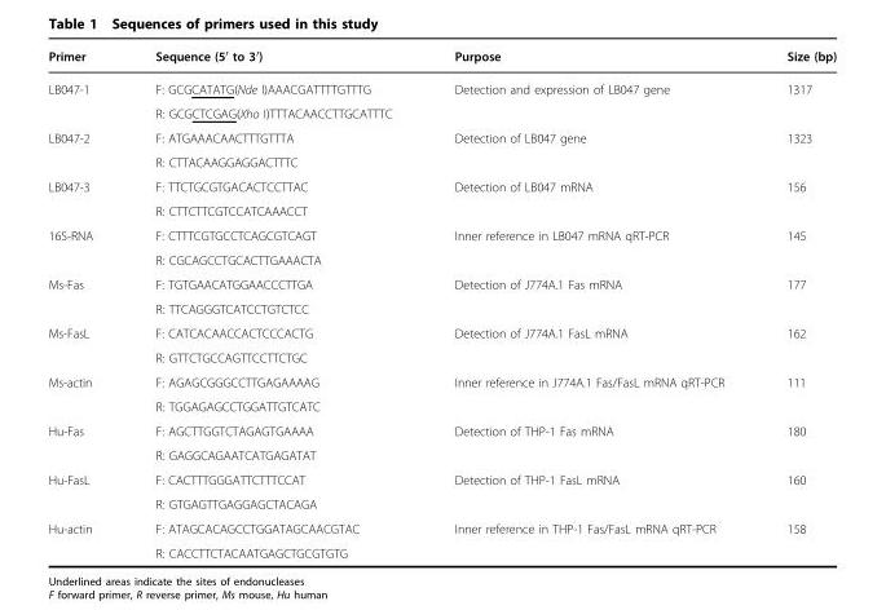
<table><thead><tr><td>Primer</td><td>Sequence (5′ to 3′)</td><td>Purpose</td><td>Size (bp)</td></tr></thead><tbody><tr><td rowspan="2">LB047-1</td><td>F: GCGCATATG(Nde I)AAACGATTTTGTTTG</td><td>Detection and expression of LB047 gene</td><td>1317</td></tr><tr><td>R: GCGCTCGAG(Xho I)TTTACAACCTTGCATTTC</td><td></td><td></td></tr><tr><td rowspan="2">LB047-2</td><td>F: ATGAAACAACTTTGTTTA</td><td>Detection of LB047 gene</td><td>1323</td></tr><tr><td>R: CTTACAAGGAGGACTTTC</td><td></td><td></td></tr><tr><td rowspan="2">LB047-3</td><td>F: TTCTGCGTGACACTCCTTAC</td><td>Detection of LB047 mRNA</td><td>156</td></tr><tr><td>R: CTTCTTCGTCCATCAAACCT</td><td></td><td></td></tr><tr><td rowspan="2">16S-RNA</td><td>F: CTTTCGTGCCTCAGCGTCAGT</td><td>Inner reference in LB047 mRNA qRT-PCR</td><td>145</td></tr><tr><td>R: CGCAGCCTGCACTTGAAACTA</td><td></td><td></td></tr><tr><td rowspan="2">Ms-Fas</td><td>F: TGTGAACATGGAACCCTTGA</td><td>Detection of J774A.1 Fas mRNA</td><td>177</td></tr><tr><td>R: TTCAGGGTCATCCTGTCTCC</td><td></td><td></td></tr><tr><td rowspan="2">Ms-FasL</td><td>F: CATCACAACCACTCCCACTG</td><td>Detection of J774A.1 FasL mRNA</td><td>162</td></tr><tr><td>R: GTTCTGCCAGTTCCTTCTGC</td><td></td><td></td></tr><tr><td rowspan="2">Ms-actin</td><td>F: AGAGCGGGCCTTGAGAAAAG</td><td>Inner reference in J774A.1 Fas/FasL mRNA qRT-PCR</td><td>111</td></tr><tr><td>R: TGGAGAGCCTGGATTGTCATC</td><td></td><td></td></tr><tr><td rowspan="2">Hu-Fas</td><td>F: AGCTTGGTCTAGAGTGAAAA</td><td>Detection of THP-1 Fas mRNA</td><td>180</td></tr><tr><td>R: GAGGCAGAATCATGAGATAT</td><td></td><td></td></tr><tr><td rowspan="2">Hu-FasL</td><td>F: CACTTTGGGATTCTTTCCAT</td><td>Detection of THP-1 FasL mRNA</td><td>160</td></tr><tr><td>R: GTGAGTTGAGGAGCTACAGA</td><td></td><td></td></tr><tr><td rowspan="2">Hu-actin</td><td>F: ATAGCACAGCCTGGATAGCAACGTAC</td><td>Inner reference in THP-1 Fas/FasL mRNA qRT-PCR</td><td>158</td></tr><tr><td>R: CACCTTCTACAATGAGCTGCGTGTG</td><td></td><td></td></tr></tbody></table>